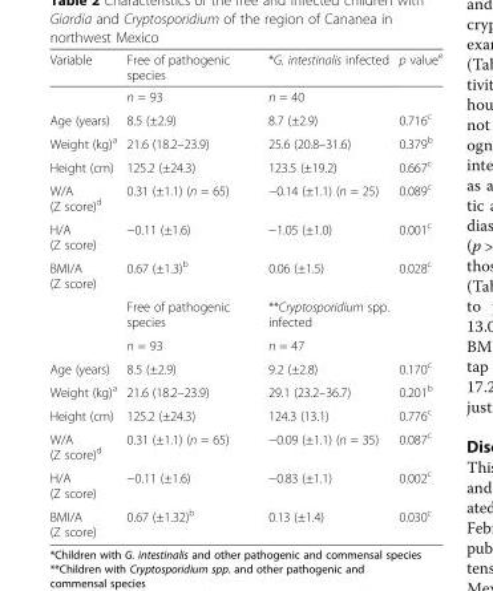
<table><thead><tr><td>Variable</td><td>Free of pathogenic species</td><td>*G. intestinalis infected</td><td>p value<sup>e</sup></td></tr></thead><tbody><tr><td></td><td>n = 93</td><td>n = 40</td><td></td></tr><tr><td>Age (years)</td><td>8.5 (±2.9)</td><td>8.7 (±2.9)</td><td>0.716<sup>c</sup></td></tr><tr><td>Weight (kg)<sup>a</sup></td><td>21.6 (18.2–23.9)</td><td>25.6 (20.8–31.6)</td><td>0.379<sup>b</sup></td></tr><tr><td>Height (cm)</td><td>125.2 (±24.3)</td><td>123.5 (±19.2)</td><td>0.667<sup>c</sup></td></tr><tr><td>W/A (Z score)<sup>d</sup></td><td>0.31 (±1.1) (n = 65)</td><td>−0.14 (±1.1) (n = 25)</td><td>0.089<sup>c</sup></td></tr><tr><td>H/A (Z score)</td><td>−0.11 (±1.6)</td><td>−1.05 (±1.0)</td><td>0.001<sup>c</sup></td></tr><tr><td rowspan="3">BMI/A (Z score)</td><td>0.67 (±1.3)<sup>b</sup></td><td>0.06 (±1.5)</td><td>0.028<sup>c</sup></td></tr><tr><td>Free of pathogenic species</td><td>**Cryptosporidium spp. infected</td><td></td></tr><tr><td>n = 93</td><td>n = 47</td><td></td></tr><tr><td>Age (years)</td><td>8.5 (±2.9)</td><td>9.2 (±2.8)</td><td>0.170<sup>c</sup></td></tr><tr><td>Weight (kg)<sup>a</sup></td><td>21.6 (18.2–23.9)</td><td>29.1 (23.2–36.7)</td><td>0.201<sup>b</sup></td></tr><tr><td>Height (cm)</td><td>125.2 (±24.3)</td><td>124.3 (13.1)</td><td>0.776<sup>c</sup></td></tr><tr><td>W/A (Z score)<sup>d</sup></td><td>0.31 (±1.1) (n = 65)</td><td>−0.09 (±1.1) (n = 35)</td><td>0.087<sup>c</sup></td></tr><tr><td>H/A (Z score)</td><td>−0.11 (±1.6)</td><td>−0.83 (±1.1)</td><td>0.002<sup>c</sup></td></tr><tr><td>BMI/A (Z score)</td><td>0.67 (±1.32)<sup>b</sup></td><td>0.13 (±1.4)</td><td>0.030<sup>c</sup></td></tr></tbody></table>